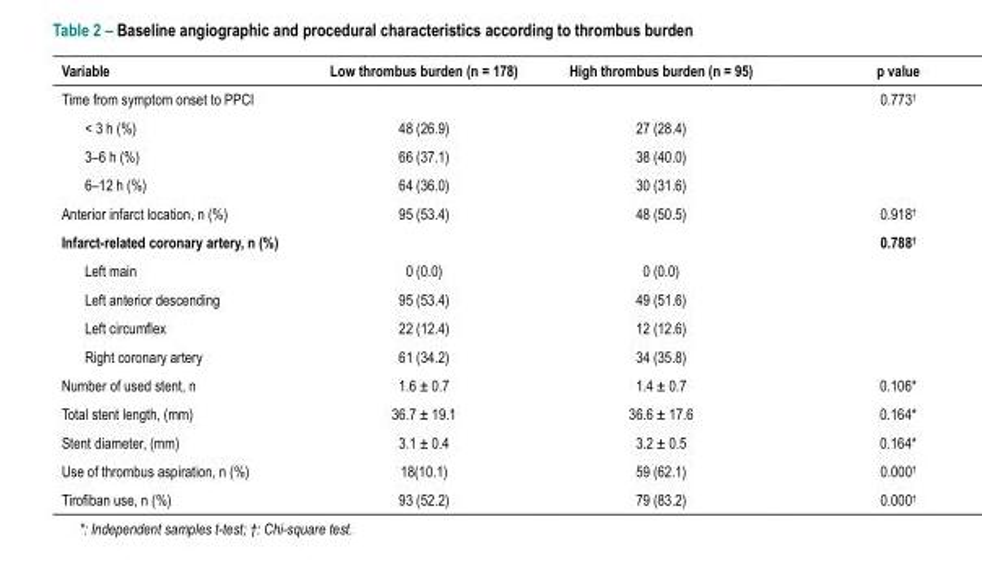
<table><thead><tr><td>Variable</td><td>Low thrombus burden (n = 178)</td><td>High thrombus burden (n = 95)</td><td>p value</td></tr></thead><tbody><tr><td>Time from symptom onset to PPCI</td><td></td><td></td><td>0.773<sup>†</sup></td></tr><tr><td>&lt; 3 h (%)</td><td>48 (26.9)</td><td>27 (28.4)</td><td></td></tr><tr><td>3–6 h (%)</td><td>66 (37.1)</td><td>38 (40.0)</td><td></td></tr><tr><td>6–12 h (%)</td><td>64 (36.0)</td><td>30 (31.6)</td><td></td></tr><tr><td>Anterior infarct location, n (%)</td><td>95 (53.4)</td><td>48 (50.5)</td><td>0.918<sup>†</sup></td></tr><tr><td>Infarct-related coronary artery, n (%)</td><td></td><td></td><td>0.788<sup>†</sup></td></tr><tr><td>Left main</td><td>0 (0.0)</td><td>0 (0.0)</td><td></td></tr><tr><td>Left anterior descending</td><td>95 (53.4)</td><td>49 (51.6)</td><td></td></tr><tr><td>Left circumflex</td><td>22 (12.4)</td><td>12 (12.6)</td><td></td></tr><tr><td>Right coronary artery</td><td>61 (34.2)</td><td>34 (35.8)</td><td></td></tr><tr><td>Number of used stent, n</td><td>1.6 ± 0.7</td><td>1.4 ± 0.7</td><td>0.106*</td></tr><tr><td>Total stent length, (mm)</td><td>36.7 ± 19.1</td><td>36.6 ± 17.6</td><td>0.164*</td></tr><tr><td>Stent diameter, (mm)</td><td>3.1 ± 0.4</td><td>3.2 ± 0.5</td><td>0.164*</td></tr><tr><td>Use of thrombus aspiration, n (%)</td><td>18(10.1)</td><td>59 (62.1)</td><td>0.000<sup>†</sup></td></tr><tr><td>Tirofiban use, n (%)</td><td>93 (52.2)</td><td>79 (83.2)</td><td>0.000<sup>†</sup></td></tr></tbody></table>